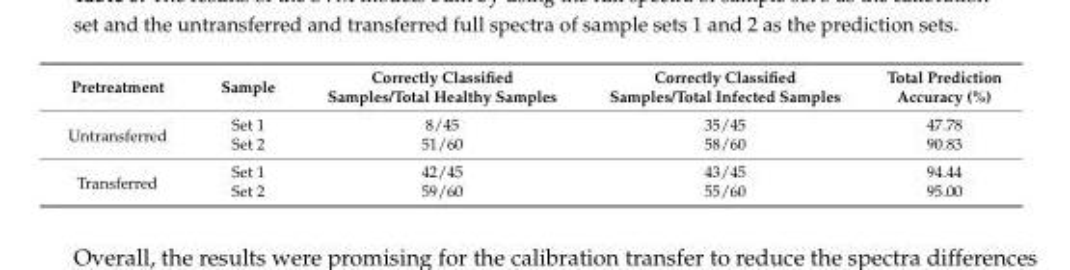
<table><thead><tr><td>Pretreatment</td><td>Sample</td><td>Correctly Classified Samples/Total Healthy Samples</td><td>Correctly Classified Samples/Total Infected Samples</td><td>Total Prediction Accuracy (%)</td></tr></thead><tbody><tr><td rowspan="2">Untransferred</td><td>Set 1</td><td>8/45</td><td>35/45</td><td>47.78</td></tr><tr><td>Set 2</td><td>51/60</td><td>58/60</td><td>90.83</td></tr><tr><td rowspan="2">Transferred</td><td>Set 1</td><td>42/45</td><td>43/45</td><td>94.44</td></tr><tr><td>Set 2</td><td>59/60</td><td>55/60</td><td>95.00</td></tr></tbody></table>